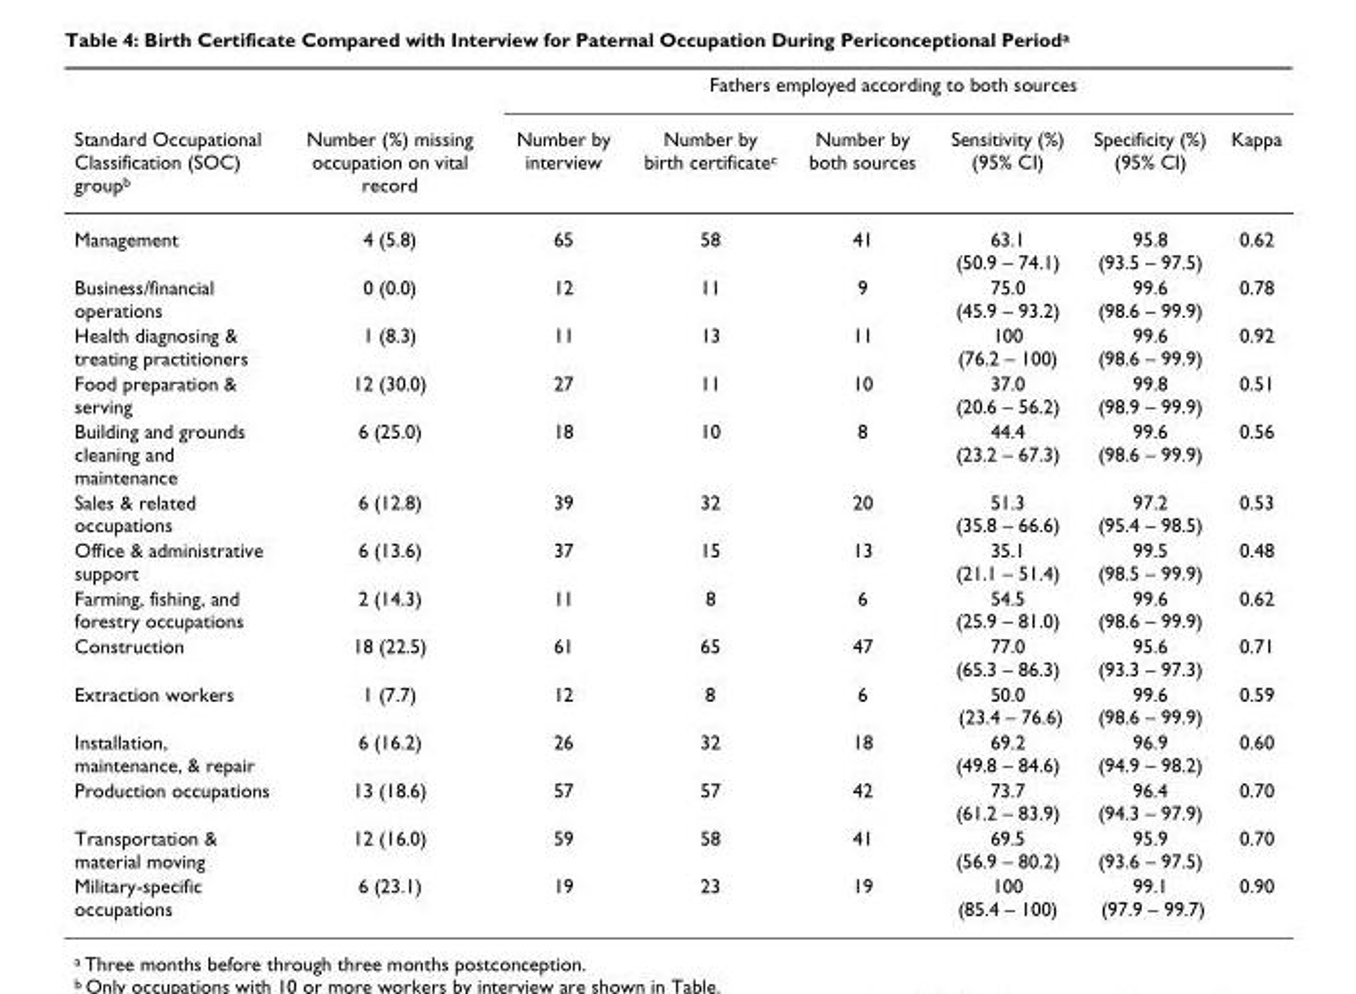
<table><thead><tr><td rowspan="2">Standard Occupational Classification (SOC) group<sup>b</sup></td><td rowspan="2">Number (%) missing occupation on vital record</td><td colspan="6">Fathers employed according to both sources</td></tr><tr><td>Number by interview</td><td>Number by birth certificate<sup>c</sup></td><td>Number by both sources</td><td>Sensitivity (%) (95% CI)</td><td>Specificity (%) (95% CI)</td><td>Kappa</td></tr></thead><tbody><tr><td>Management</td><td>4 (5.8)</td><td>65</td><td>58</td><td>41</td><td>63.1 (50.9 – 74.1)</td><td>95.8 (93.5 – 97.5)</td><td>0.62</td></tr><tr><td>Business/financial operations</td><td>0 (0.0)</td><td>12</td><td>11</td><td>9</td><td>75.0 (45.9 – 93.2)</td><td>99.6 (98.6 – 99.9)</td><td>0.78</td></tr><tr><td>Health diagnosing &amp; treating practitioners</td><td>1 (8.3)</td><td>11</td><td>13</td><td>11</td><td>100 (76.2 – 100)</td><td>99.6 (98.6 – 99.9)</td><td>0.92</td></tr><tr><td>Food preparation &amp; serving</td><td>12 (30.0)</td><td>27</td><td>11</td><td>10</td><td>37.0 (20.6 – 56.2)</td><td>99.8 (98.9 – 99.9)</td><td>0.51</td></tr><tr><td>Building and grounds cleaning and maintenance</td><td>6 (25.0)</td><td>18</td><td>10</td><td>8</td><td>44.4 (23.2 – 67.3)</td><td>99.6 (98.6 – 99.9)</td><td>0.56</td></tr><tr><td>Sales &amp; related occupations</td><td>6 (12.8)</td><td>39</td><td>32</td><td>20</td><td>51.3 (35.8 – 66.6)</td><td>97.2 (95.4 – 98.5)</td><td>0.53</td></tr><tr><td>Office &amp; administrative support</td><td>6 (13.6)</td><td>37</td><td>15</td><td>13</td><td>35.1 (21.1 – 51.4)</td><td>99.5 (98.5 – 99.9)</td><td>0.48</td></tr><tr><td>Farming, fishing, and forestry occupations</td><td>2 (14.3)</td><td>11</td><td>8</td><td>6</td><td>54.5 (25.9 – 81.0)</td><td>99.6 (98.6 – 99.9)</td><td>0.62</td></tr><tr><td>Construction</td><td>18 (22.5)</td><td>61</td><td>65</td><td>47</td><td>77.0 (65.3 – 86.3)</td><td>95.6 (93.3 – 97.3)</td><td>0.71</td></tr><tr><td>Extraction workers</td><td>1 (7.7)</td><td>12</td><td>8</td><td>6</td><td>50.0 (23.4 – 76.6)</td><td>99.6 (98.6 – 99.9)</td><td>0.59</td></tr><tr><td>Installation, maintenance, &amp; repair</td><td>6 (16.2)</td><td>26</td><td>32</td><td>18</td><td>69.2 (49.8 – 84.6)</td><td>96.9 (94.9 – 98.2)</td><td>0.60</td></tr><tr><td>Production occupations</td><td>13 (18.6)</td><td>57</td><td>57</td><td>42</td><td>73.7 (61.2 – 83.9)</td><td>96.4 (94.3 – 97.9)</td><td>0.70</td></tr><tr><td>Transportation &amp; material moving</td><td>12 (16.0)</td><td>59</td><td>58</td><td>41</td><td>69.5 (56.9 – 80.2)</td><td>95.9 (93.6 – 97.5)</td><td>0.70</td></tr><tr><td>Military-specific occupations</td><td>6 (23.1)</td><td>19</td><td>23</td><td>19</td><td>100 (85.4 – 100)</td><td>99.1 (97.9 – 99.7)</td><td>0.90</td></tr></tbody></table>